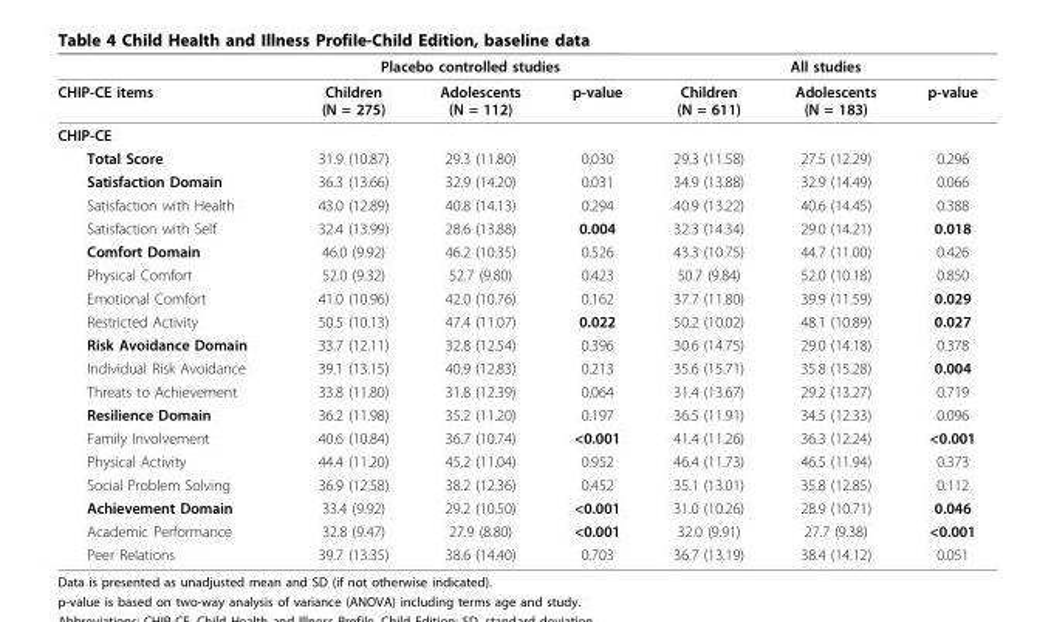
<table><thead><tr><td rowspan="2">CHIP-CE items</td><td colspan="3">Placebo controlled studies</td><td colspan="3">All studies</td></tr><tr><td>Children (N = 275)</td><td>Adolescents (N = 112)</td><td>p-value</td><td>Children (N = 611)</td><td>Adolescents (N = 183)</td><td>p-value</td></tr></thead><tbody><tr><td colspan="7">CHIP-CE</td></tr><tr><td>Total Score</td><td>31.9 (10.87)</td><td>29.3 (11.80)</td><td>0.030</td><td>29.3 (11.58)</td><td>27.5 (12.29)</td><td>0.296</td></tr><tr><td>Satisfaction Domain</td><td>36.3 (13.66)</td><td>32.9 (14.20)</td><td>0.031</td><td>34.9 (13.88)</td><td>32.9 (14.49)</td><td>0.066</td></tr><tr><td>Satisfaction with Health</td><td>43.0 (12.89)</td><td>40.8 (14.13)</td><td>0.294</td><td>40.9 (13.22)</td><td>40.6 (14.45)</td><td>0.388</td></tr><tr><td>Satisfaction with Self</td><td>32.4 (13.99)</td><td>28.6 (13.88)</td><td>0.004</td><td>32.3 (14.34)</td><td>29.0 (14.21)</td><td>0.018</td></tr><tr><td>Comfort Domain</td><td>46.0 (9.92)</td><td>46.2 (10.35)</td><td>0.526</td><td>43.3 (10.75)</td><td>44.7 (11.00)</td><td>0.426</td></tr><tr><td>Physical Comfort</td><td>52.0 (9.32)</td><td>52.7 (9.80)</td><td>0.423</td><td>50.7 (9.84)</td><td>52.0 (10.18)</td><td>0.850</td></tr><tr><td>Emotional Comfort</td><td>41.0 (10.96)</td><td>42.0 (10.76)</td><td>0.162</td><td>37.7 (11.80)</td><td>39.9 (11.59)</td><td>0.029</td></tr><tr><td>Restricted Activity</td><td>50.5 (10.13)</td><td>47.4 (11.07)</td><td>0.022</td><td>50.2 (10.02)</td><td>48.1 (10.89)</td><td>0.027</td></tr><tr><td>Risk Avoidance Domain</td><td>33.7 (12.11)</td><td>32.8 (12.54)</td><td>0.396</td><td>30.6 (14.75)</td><td>29.0 (14.18)</td><td>0.378</td></tr><tr><td>Individual Risk Avoidance</td><td>39.1 (13.15)</td><td>40.9 (12.83)</td><td>0.213</td><td>35.6 (15.71)</td><td>35.8 (15.28)</td><td>0.004</td></tr><tr><td>Threats to Achievement</td><td>33.8 (11.80)</td><td>31.8 (12.39)</td><td>0.064</td><td>31.4 (13.67)</td><td>29.2 (13.27)</td><td>0.719</td></tr><tr><td>Resilience Domain</td><td>36.2 (11.98)</td><td>35.2 (11.20)</td><td>0.197</td><td>36.5 (11.91)</td><td>34.5 (12.33)</td><td>0.096</td></tr><tr><td>Family Involvement</td><td>40.6 (10.84)</td><td>36.7 (10.74)</td><td>&lt;0.001</td><td>41.4 (11.26)</td><td>36.3 (12.24)</td><td>&lt;0.001</td></tr><tr><td>Physical Activity</td><td>44.4 (11.20)</td><td>45.2 (11.04)</td><td>0.952</td><td>46.4 (11.73)</td><td>46.5 (11.94)</td><td>0.373</td></tr><tr><td>Social Problem Solving</td><td>36.9 (12.58)</td><td>38.2 (12.36)</td><td>0.452</td><td>35.1 (13.01)</td><td>35.8 (12.85)</td><td>0.112</td></tr><tr><td>Achievement Domain</td><td>33.4 (9.92)</td><td>29.2 (10.50)</td><td>&lt;0.001</td><td>31.0 (10.26)</td><td>28.9 (10.71)</td><td>0.046</td></tr><tr><td>Academic Performance</td><td>32.8 (9.47)</td><td>27.9 (8.80)</td><td>&lt;0.001</td><td>32.0 (9.91)</td><td>27.7 (9.38)</td><td>&lt;0.001</td></tr><tr><td>Peer Relations</td><td>39.7 (13.35)</td><td>38.6 (14.40)</td><td>0.703</td><td>36.7 (13.19)</td><td>38.4 (14.12)</td><td>0.051</td></tr></tbody></table>